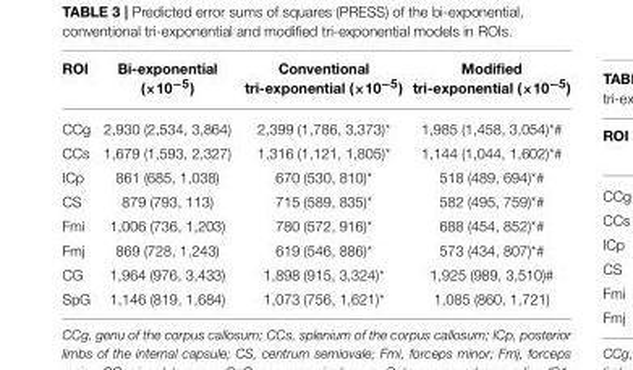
<table><thead><tr><td>ROI</td><td>Bi-exponential (×10<sup>−5</sup>)</td><td>Conventional tri-exponential (×10<sup>−5</sup>)</td><td>Modified tri-exponential (×10<sup>−5</sup>)</td></tr></thead><tbody><tr><td>CCg</td><td>2,930 (2,534, 3,864)</td><td>2,399 (1,786, 3,373)*</td><td>1,985 (1,458, 3,054)<sup>*#</sup></td></tr><tr><td>CCs</td><td>1,679 (1,593, 2,327)</td><td>1,316 (1,121, 1,805)*</td><td>1,144 (1,044, 1,602)<sup>*#</sup></td></tr><tr><td>ICp</td><td>861 (685, 1,038)</td><td>670 (530, 810)*</td><td>518 (489, 694)<sup>*#</sup></td></tr><tr><td>CS</td><td>879 (793, 113)</td><td>715 (589, 835)*</td><td>582 (495, 759)<sup>*#</sup></td></tr><tr><td>Fmi</td><td>1,006 (736, 1,203)</td><td>780 (572, 916)*</td><td>688 (454, 852)<sup>*#</sup></td></tr><tr><td>Fmj</td><td>869 (728, 1,243)</td><td>619 (546, 886)*</td><td>573 (434, 807)<sup>*#</sup></td></tr><tr><td>CG</td><td>1,964 (976, 3,433)</td><td>1,898 (915, 3,324)*</td><td>1,925 (989, 3,510)<sup>#</sup></td></tr><tr><td>SpG</td><td>1,146 (819, 1,684)</td><td>1,073 (756, 1,621)*</td><td>1,085 (860, 1,721)</td></tr></tbody></table>